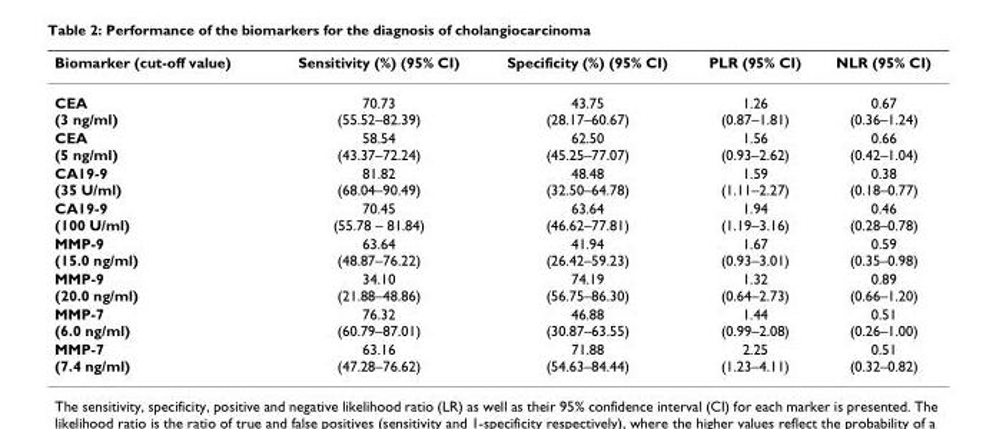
<table><thead><tr><td>Biomarker (cut-off value)</td><td>Sensitivity (%) (95% CI)</td><td>Specificity (%) (95% CI)</td><td>PLR (95% CI)</td><td>NLR (95% CI)</td></tr></thead><tbody><tr><td>CEA (3 ng/ml)</td><td>70.73 (55.52–82.39)</td><td>43.75 (28.17–60.67)</td><td>1.26 (0.87–1.81)</td><td>0.67 (0.36–1.24)</td></tr><tr><td>CEA (5 ng/ml)</td><td>58.54 (43.37–72.24)</td><td>62.50 (45.25–77.07)</td><td>1.56 (0.93–2.62)</td><td>0.66 (0.42–1.04)</td></tr><tr><td>CA19-9 (35 U/ml)</td><td>81.82 (68.04–90.49)</td><td>48.48 (32.50–64.78)</td><td>1.59 (1.11–2.27)</td><td>0.38 (0.18–0.77)</td></tr><tr><td>CA19-9 (100 U/ml)</td><td>70.45 (55.78 – 81.84)</td><td>63.64 (46.62–77.81)</td><td>1.94 (1.19–3.16)</td><td>0.46 (0.28–0.78)</td></tr><tr><td>MMP-9 (15.0 ng/ml)</td><td>63.64 (48.87–76.22)</td><td>41.94 (26.42–59.23)</td><td>1.67 (0.93–3.01)</td><td>0.59 (0.35–0.98)</td></tr><tr><td>MMP-9 (20.0 ng/ml)</td><td>34.10 (21.88–48.86)</td><td>74.19 (56.75–86.30)</td><td>1.32 (0.64–2.73)</td><td>0.89 (0.66–1.20)</td></tr><tr><td>MMP-7 (6.0 ng/ml)</td><td>76.32 (60.79–87.01)</td><td>46.88 (30.87–63.55)</td><td>1.44 (0.99–2.08)</td><td>0.51 (0.26–1.00)</td></tr><tr><td>MMP-7 (7.4 ng/ml)</td><td>63.16 (47.28–76.62)</td><td>71.88 (54.63–84.44)</td><td>2.25 (1.23–4.11)</td><td>0.51 (0.32–0.82)</td></tr></tbody></table>